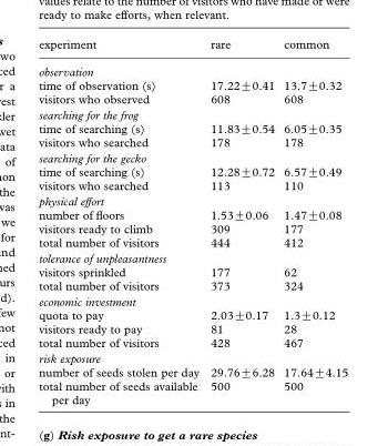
<table><thead><tr><td>experiment</td><td>rare</td><td>common</td></tr></thead><tbody><tr><td colspan="3">observation</td></tr><tr><td>time of observation (s)</td><td>17.22±0.41</td><td>13.7±0.32</td></tr><tr><td>visitors who observed</td><td>608</td><td>608</td></tr><tr><td colspan="3">searching for the frog</td></tr><tr><td>time of searching (s)</td><td>11.83±0.54</td><td>6.05±0.35</td></tr><tr><td>visitors who searched</td><td>178</td><td>178</td></tr><tr><td colspan="3">searching for the gecko</td></tr><tr><td>time of searching (s)</td><td>12.28±0.72</td><td>6.57±0.49</td></tr><tr><td>visitors who searched</td><td>113</td><td>110</td></tr><tr><td colspan="3">physical effort</td></tr><tr><td>number of floors</td><td>1.53±0.06</td><td>1.47±0.08</td></tr><tr><td>visitors ready to climb</td><td>309</td><td>177</td></tr><tr><td>total number of visitors</td><td>444</td><td>412</td></tr><tr><td colspan="3">tolerance of unpleasantness</td></tr><tr><td>visitors sprinkled</td><td>177</td><td>62</td></tr><tr><td>total number of visitors</td><td>373</td><td>324</td></tr><tr><td colspan="3">economic investment</td></tr><tr><td>quota to pay</td><td>2.03±0.17</td><td>1.3±0.12</td></tr><tr><td>visitors ready to pay</td><td>81</td><td>28</td></tr><tr><td>total number of visitors</td><td>428</td><td>467</td></tr><tr><td colspan="3">risk exposure</td></tr><tr><td>number of seeds stolen per day</td><td>29.76±6.28</td><td>17.64±4.15</td></tr><tr><td>total number of seeds available per day</td><td>500</td><td>500</td></tr></tbody></table>